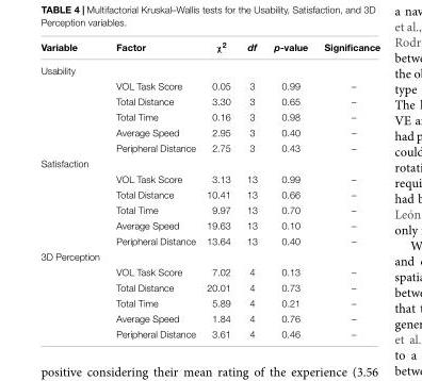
<table><thead><tr><td>Variable</td><td>Factor</td><td>χ<sup>2</sup></td><td>df</td><td>p-value</td><td>Significance</td></tr></thead><tbody><tr><td colspan="6">Usability</td></tr><tr><td></td><td>VOL Task Score</td><td>0.05</td><td>3</td><td>0.99</td><td>–</td></tr><tr><td></td><td>Total Distance</td><td>3.30</td><td>3</td><td>0.65</td><td>–</td></tr><tr><td></td><td>Total Time</td><td>0.16</td><td>3</td><td>0.98</td><td>–</td></tr><tr><td></td><td>Average Speed</td><td>2.95</td><td>3</td><td>0.40</td><td>–</td></tr><tr><td></td><td>Peripheral Distance</td><td>2.75</td><td>3</td><td>0.43</td><td>–</td></tr><tr><td colspan="6">Satisfaction</td></tr><tr><td></td><td>VOL Task Score</td><td>3.13</td><td>13</td><td>0.99</td><td>–</td></tr><tr><td></td><td>Total Distance</td><td>10.41</td><td>13</td><td>0.66</td><td>–</td></tr><tr><td></td><td>Total Time</td><td>9.97</td><td>13</td><td>0.70</td><td>–</td></tr><tr><td></td><td>Average Speed</td><td>19.63</td><td>13</td><td>0.10</td><td>–</td></tr><tr><td></td><td>Peripheral Distance</td><td>13.64</td><td>13</td><td>0.40</td><td>–</td></tr><tr><td colspan="6">3D Perception</td></tr><tr><td></td><td>VOL Task Score</td><td>7.02</td><td>4</td><td>0.13</td><td>–</td></tr><tr><td></td><td>Total Distance</td><td>20.01</td><td>4</td><td>0.73</td><td>–</td></tr><tr><td></td><td>Total Time</td><td>5.89</td><td>4</td><td>0.21</td><td>–</td></tr><tr><td></td><td>Average Speed</td><td>1.84</td><td>4</td><td>0.76</td><td>–</td></tr><tr><td></td><td>Peripheral Distance</td><td>3.61</td><td>4</td><td>0.46</td><td>–</td></tr></tbody></table>